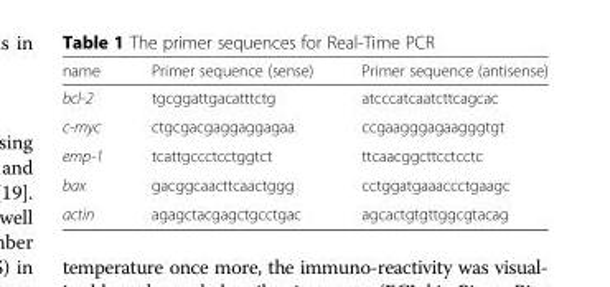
<table><thead><tr><td>name</td><td>Primer sequence (sense)</td><td>Primer sequence (antisense)</td></tr></thead><tbody><tr><td>bcl-2</td><td>tgcggattgacatttctg</td><td>atcccatcaatcttcagcac</td></tr><tr><td>c-myc</td><td>ctgcgacgaggaggagaa</td><td>ccgaagggagaagggtgt</td></tr><tr><td>emp-1</td><td>tcattgccctcctggtct</td><td>ttcaacggcttcctcctc</td></tr><tr><td>bax</td><td>gacggcaacttcaactggg</td><td>cctggatgaaaccctgaagc</td></tr><tr><td>actin</td><td>agagctacgagctgcctgac</td><td>agcactgtgttggcgtacag</td></tr></tbody></table>